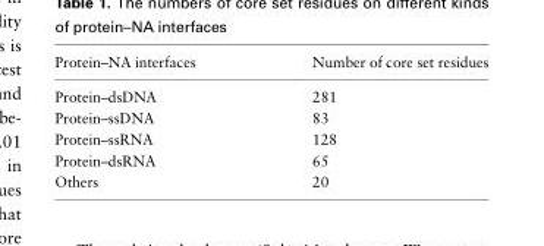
<table><thead><tr><td>Protein–NA interfaces</td><td>Number of core set residues</td></tr></thead><tbody><tr><td>Protein–dsDNA</td><td>281</td></tr><tr><td>Protein–ssDNA</td><td>83</td></tr><tr><td>Protein–ssRNA</td><td>128</td></tr><tr><td>Protein–dsRNA</td><td>65</td></tr><tr><td>Others</td><td>20</td></tr></tbody></table>